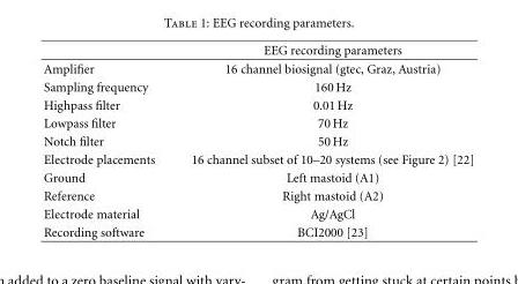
<table><thead><tr><td></td><td>EEG recording parameters</td></tr></thead><tbody><tr><td>Amplifier</td><td>16 channel biosignal (gtec, Graz, Austria)</td></tr><tr><td>Sampling frequency</td><td>160 Hz</td></tr><tr><td>Highpass filter</td><td>0.01 Hz</td></tr><tr><td>Lowpass filter</td><td>70 Hz</td></tr><tr><td>Notch filter</td><td>50 Hz</td></tr><tr><td>Electrode placements</td><td>16 channel subset of 10–20 systems (see Figure 2) [22]</td></tr><tr><td>Ground</td><td>Left mastoid (A1)</td></tr><tr><td>Reference</td><td>Right mastoid (A2)</td></tr><tr><td>Electrode material</td><td>Ag/AgCl</td></tr><tr><td>Recording software</td><td>BCI2000 [23]</td></tr></tbody></table>